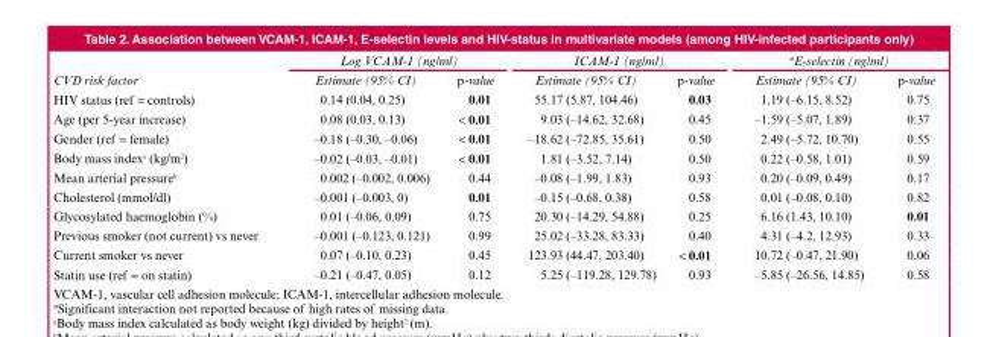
<table><thead><tr><td rowspan="2">CVD risk factor</td><td colspan="2">Log VCAM-1 (ng/ml)</td><td colspan="2">ICAM-1 (ng/ml)</td><td colspan="2"><sup>#</sup>E-selectin (ng/ml)</td></tr><tr><td>Estimate (95% CI)</td><td>p-value</td><td>Estimate (95% CI)</td><td>p-value</td><td>Estimate (95% CI)</td><td>p-value</td></tr></thead><tbody><tr><td>HIV status (ref = controls)</td><td>0.14 (0.04, 0.25)</td><td>0.01</td><td>55.17 (5.87, 104.46)</td><td>0.03</td><td>1.19 (–6.15, 8.52)</td><td>0.75</td></tr><tr><td>Age (per 5-year increase)</td><td>0.08 (0.03, 0.13)</td><td>&lt; 0.01</td><td>9.03 (–14.62, 32.68)</td><td>0.45</td><td>–1.59 (–5.07, 1.89)</td><td>0.37</td></tr><tr><td>Gender (ref = female)</td><td>–0.18 (–0.30, –0.06)</td><td>&lt; 0.01</td><td>–18.62 (–72.85, 35.61)</td><td>0.50</td><td>2.49 (–5.72, 10.70)</td><td>0.55</td></tr><tr><td>Body mass index<sup>a</sup> (kg/m<sup>2</sup>)</td><td>–0.02 (–0.03, –0.01)</td><td>&lt; 0.01</td><td>1.81 (–3.52, 7.14)</td><td>0.50</td><td>0.22 (–0.58, 1.01)</td><td>0.59</td></tr><tr><td>Mean arterial pressure<sup>b</sup></td><td>0.002 (–0.002, 0.006)</td><td>0.44</td><td>–0.08 (–1.99, 1.83)</td><td>0.93</td><td>0.20 (–0.09, 0.49)</td><td>0.17</td></tr><tr><td>Cholesterol (mmol/dl)</td><td>–0.001 (–0.003, 0)</td><td>0.01</td><td>–0.15 (–0.68, 0.38)</td><td>0.58</td><td>0.01 (–0.08, 0.10)</td><td>0.82</td></tr><tr><td>Glycosylated haemoglobin (%)</td><td>0.01 (–0.06, 0.09)</td><td>0.75</td><td>20.30 (–14.29, 54.88)</td><td>0.25</td><td>6.16 (1.43, 10.10)</td><td>0.01</td></tr><tr><td>Previous smoker (not current) vs never</td><td>–0.001 (–0.123, 0.121)</td><td>0.99</td><td>25.02 (–33.28, 83.33)</td><td>0.40</td><td>4.31 (–4.2, 12.93)</td><td>0.33</td></tr><tr><td>Current smoker vs never</td><td>0.07 (–0.10, 0.23)</td><td>0.45</td><td>123.93 (44.47, 203.40)</td><td>&lt; 0.01</td><td>10.72 (–0.47, 21.90)</td><td>0.06</td></tr><tr><td>Statin use (ref = on statin)</td><td>–0.21 (–0.47, 0.05)</td><td>0.12</td><td>5.25 (–119.28, 129.78)</td><td>0.93</td><td>–5.85 (–26.56, 14.85)</td><td>0.58</td></tr></tbody></table>